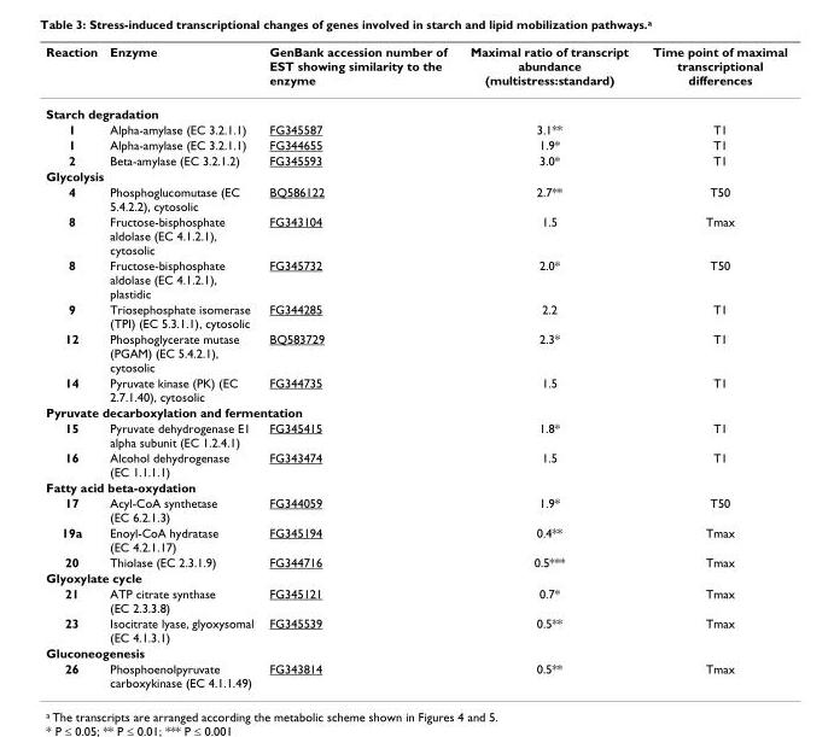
<table><thead><tr><td>Reaction</td><td>Enzyme</td><td>GenBank accession number of EST showing similarity to the enzyme</td><td>Maximal ratio of transcript abundance (multistress:standard)</td><td>Time point of maximal transcriptional differences</td></tr></thead><tbody><tr><td colspan="5">Starch degradation</td></tr><tr><td>1</td><td>Alpha-amylase (EC 3.2.1.1)</td><td>FG345587</td><td>3.1**</td><td>T1</td></tr><tr><td>1</td><td>Alpha-amylase (EC 3.2.1.1)</td><td>FG344655</td><td>1.9*</td><td>T1</td></tr><tr><td>2</td><td>Beta-amylase (EC 3.2.1.2)</td><td>FG345593</td><td>3.0*</td><td>T1</td></tr><tr><td colspan="5">Glycolysis</td></tr><tr><td>4</td><td>Phosphoglucomutase (EC 5.4.2.2), cytosolic</td><td>BQ586122</td><td>2.7**</td><td>T50</td></tr><tr><td>8</td><td>Fructose-bisphosphate aldolase (EC 4.1.2.1), cytosolic</td><td>FG343104</td><td>1.5</td><td>Tmax</td></tr><tr><td>8</td><td>Fructose-bisphosphate aldolase (EC 4.1.2.1), plastidic</td><td>FG345732</td><td>2.0*</td><td>T50</td></tr><tr><td>9</td><td>Triosephosphate isomerase (TPI) (EC 5.3.1.1), cytosolic</td><td>FG344285</td><td>2.2</td><td>T1</td></tr><tr><td>12</td><td>Phosphoglycerate mutase (PGAM) (EC 5.4.2.1), cytosolic</td><td>BQ583729</td><td>2.3*</td><td>T1</td></tr><tr><td>14</td><td>Pyruvate kinase (PK) (EC 2.7.1.40), cytosolic</td><td>FG344735</td><td>1.5</td><td>T1</td></tr><tr><td colspan="5">Pyruvate decarboxylation and fermentation</td></tr><tr><td>15</td><td>Pyruvate dehydrogenase E1 alpha subunit (EC 1.2.4.1)</td><td>FG345415</td><td>1.8*</td><td>T1</td></tr><tr><td>16</td><td>Alcohol dehydrogenase (EC 1.1.1.1)</td><td>FG343474</td><td>1.5</td><td>T1</td></tr><tr><td colspan="5">Fatty acid beta-oxydation</td></tr><tr><td>17</td><td>Acyl-CoA synthetase (EC 6.2.1.3)</td><td>FG344059</td><td>1.9*</td><td>T50</td></tr><tr><td>19a</td><td>Enoyl-CoA hydratase (EC 4.2.1.17)</td><td>FG345194</td><td>0.4**</td><td>Tmax</td></tr><tr><td>20</td><td>Thiolase (EC 2.3.1.9)</td><td>FG344716</td><td>0.5***</td><td>Tmax</td></tr><tr><td colspan="5">Glyoxylate cycle</td></tr><tr><td>21</td><td>ATP citrate synthase (EC 2.3.3.8)</td><td>FG345121</td><td>0.7*</td><td>Tmax</td></tr><tr><td>23</td><td>Isocitrate lyase, glyoxysomal (EC 4.1.3.1)</td><td>FG345539</td><td>0.5**</td><td>Tmax</td></tr><tr><td colspan="5">Gluconeogenesis</td></tr><tr><td>26</td><td>Phosphoenolpyruvate carboxykinase (EC 4.1.1.49)</td><td>FG343814</td><td>0.5**</td><td>Tmax</td></tr></tbody></table>